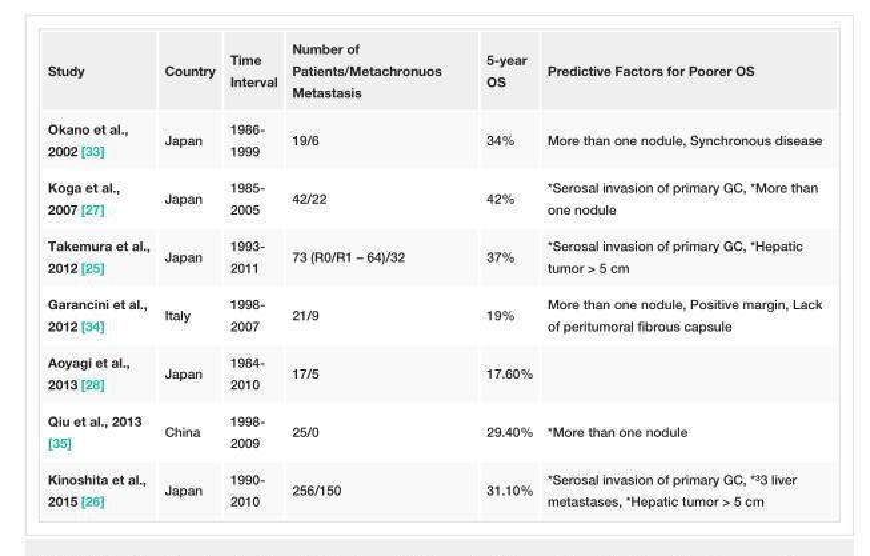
<table><tbody><tr><td>Study</td><td>Country</td><td>Time Interval</td><td>Number of Patients/Metachronuos Metastasis</td><td>5-year OS</td><td>Predictive Factors for Poorer OS</td></tr><tr><td>Okano et al., 2002 [33]</td><td>Japan</td><td>1986- 1999</td><td>19/6</td><td>34%</td><td>More than one nodule, Synchronous disease</td></tr><tr><td>Koga et al., 2007 [27]</td><td>Japan</td><td>1985- 2005</td><td>42/22</td><td>42%</td><td>*Serosal invasion of primary GC, *More than one nodule</td></tr><tr><td>Takemura et al., 2012 [25]</td><td>Japan</td><td>1993- 2011</td><td>73 (R0/R1 – 64)/32</td><td>37%</td><td>*Serosal invasion of primary GC, *Hepatic tumor &gt; 5 cm</td></tr><tr><td>Garancini et al., 2012 [34]</td><td>Italy</td><td>1998- 2007</td><td>21/9</td><td>19%</td><td>More than one nodule, Positive margin, Lack of peritumoral fibrous capsule</td></tr><tr><td>Aoyagi et al., 2013 [28]</td><td>Japan</td><td>1984- 2010</td><td>17/5</td><td>17.60%</td><td></td></tr><tr><td>Qiu et al., 2013 [35]</td><td>China</td><td>1998- 2009</td><td>25/0</td><td>29.40%</td><td>*More than one nodule</td></tr><tr><td>Kinoshita et al., 2015 [26]</td><td>Japan</td><td>1990- 2010</td><td>256/150</td><td>31.10%</td><td>*Serosal invasion of primary GC, *³3 liver metastases, *Hepatic tumor &gt; 5 cm</td></tr></tbody></table>